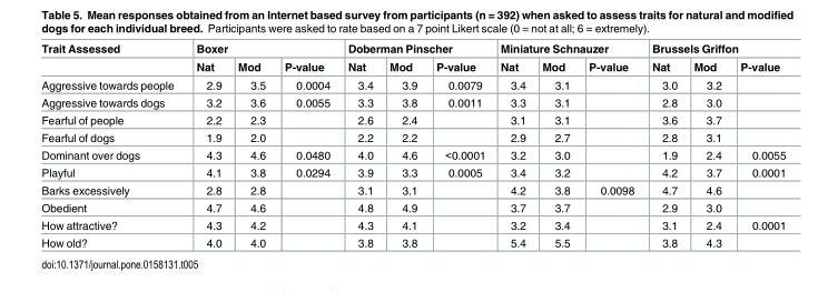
<table><thead><tr><td rowspan="2">Trait Assessed</td><td colspan="3">Boxer</td><td colspan="3">Doberman Pinscher</td><td colspan="3">Miniature Schnauzer</td><td colspan="3">Brussels Griffon</td></tr><tr><td>Nat</td><td>Mod</td><td>P-value</td><td>Nat</td><td>Mod</td><td>P-value</td><td>Nat</td><td>Mod</td><td>P-value</td><td>Nat</td><td>Mod</td><td>P-value</td></tr></thead><tbody><tr><td>Aggressive towards people</td><td>2.9</td><td>3.5</td><td>0.0004</td><td>3.4</td><td>3.9</td><td>0.0079</td><td>3.4</td><td>3.1</td><td></td><td>3.0</td><td>3.2</td><td></td></tr><tr><td>Aggressive towards dogs</td><td>3.2</td><td>3.6</td><td>0.0055</td><td>3.3</td><td>3.8</td><td>0.0011</td><td>3.3</td><td>3.1</td><td></td><td>2.8</td><td>3.0</td><td></td></tr><tr><td>Fearful of people</td><td>2.2</td><td>2.3</td><td></td><td>2.6</td><td>2.4</td><td></td><td>3.1</td><td>3.1</td><td></td><td>3.6</td><td>3.7</td><td></td></tr><tr><td>Fearful of dogs</td><td>1.9</td><td>2.0</td><td></td><td>2.2</td><td>2.2</td><td></td><td>2.9</td><td>2.7</td><td></td><td>2.8</td><td>3.1</td><td></td></tr><tr><td>Dominant over dogs</td><td>4.3</td><td>4.6</td><td>0.0480</td><td>4.0</td><td>4.6</td><td>&lt;0.0001</td><td>3.2</td><td>3.0</td><td></td><td>1.9</td><td>2.4</td><td>0.0055</td></tr><tr><td>Playful</td><td>4.1</td><td>3.8</td><td>0.0294</td><td>3.9</td><td>3.3</td><td>0.0005</td><td>3.4</td><td>3.2</td><td></td><td>4.2</td><td>3.7</td><td>0.0001</td></tr><tr><td>Barks excessively</td><td>2.8</td><td>2.8</td><td></td><td>3.1</td><td>3.1</td><td></td><td>4.2</td><td>3.8</td><td>0.0098</td><td>4.7</td><td>4.6</td><td></td></tr><tr><td>Obedient</td><td>4.7</td><td>4.6</td><td></td><td>4.8</td><td>4.9</td><td></td><td>3.7</td><td>3.7</td><td></td><td>2.9</td><td>3.0</td><td></td></tr><tr><td>How attractive?</td><td>4.3</td><td>4.2</td><td></td><td>4.3</td><td>4.1</td><td></td><td>3.2</td><td>3.4</td><td></td><td>3.1</td><td>2.4</td><td>0.0001</td></tr><tr><td>How old?</td><td>4.0</td><td>4.0</td><td></td><td>3.8</td><td>3.8</td><td></td><td>5.4</td><td>5.5</td><td></td><td>3.8</td><td>4.3</td><td></td></tr></tbody></table>